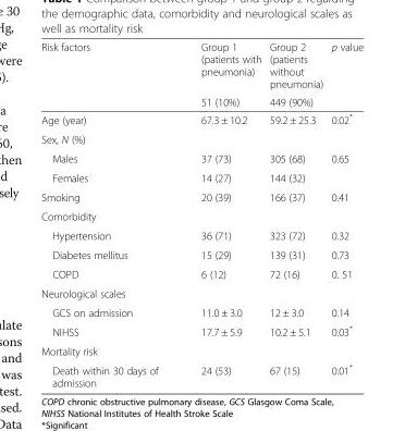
<table><thead><tr><td rowspan="2">Risk factors</td><td rowspan="2">Group 1 (patients with pneumonia) 51 (10%)</td><td rowspan="2">Group 2 (patients without pneumonia) 449 (90%)</td><td rowspan="2">p value</td></tr><tr></tr></thead><tbody><tr><td>Age (year)</td><td>67.3 ± 10.2</td><td>59.2 ± 25.3</td><td>0.02*</td></tr><tr><td colspan="4">Sex, N (%)</td></tr><tr><td>Males</td><td>37 (73)</td><td>305 (68)</td><td rowspan="2">0.65</td></tr><tr><td>Females</td><td>14 (27)</td><td>144 (32)</td></tr><tr><td>Smoking</td><td>20 (39)</td><td>166 (37)</td><td>0.41</td></tr><tr><td colspan="4">Comorbidity</td></tr><tr><td>Hypertension</td><td>36 (71)</td><td>323 (72)</td><td>0.32</td></tr><tr><td>Diabetes mellitus</td><td>15 (29)</td><td>139 (31)</td><td>0.73</td></tr><tr><td>COPD</td><td>6 (12)</td><td>72 (16)</td><td>0. 51</td></tr><tr><td colspan="4">Neurological scales</td></tr><tr><td>GCS on admission</td><td>11.0 ± 3.0</td><td>12 ± 3.0</td><td>0.14</td></tr><tr><td>NIHSS</td><td>17.7 ± 5.9</td><td>10.2 ± 5.1</td><td>0.03*</td></tr><tr><td colspan="4">Mortality risk</td></tr><tr><td>Death within 30 days of admission</td><td>24 (53)</td><td>67 (15)</td><td>0.01*</td></tr></tbody></table>